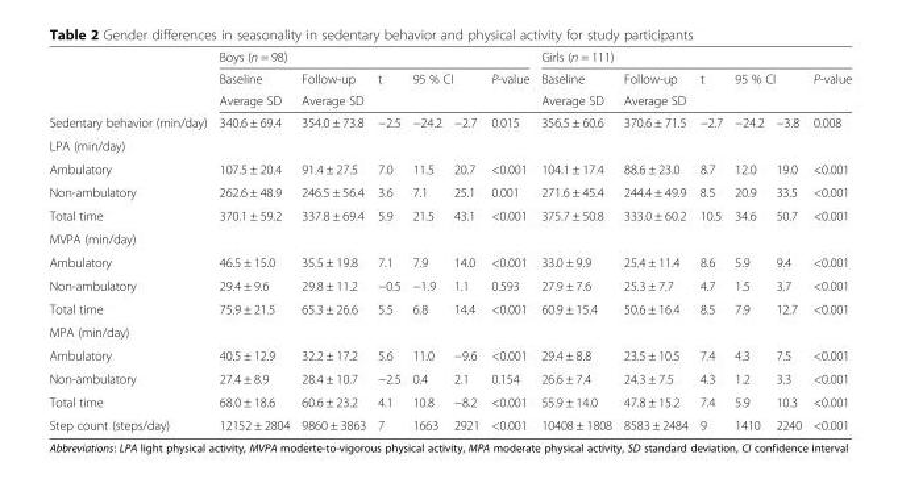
<table><thead><tr><td rowspan="4">Sedentary behavior (min/day)</td><td colspan="6">Boys (n = 98)</td><td colspan="6">Girls (n = 111)</td></tr><tr><td rowspan="3">Baseline Average SD 340.6 ± 69.4</td><td rowspan="3">Follow-up Average SD 354.0 ± 73.8</td><td rowspan="3">t −2.5</td><td rowspan="2" colspan="2">95 % CI</td><td rowspan="3">P-value 0.015</td><td rowspan="3">Baseline Average SD 356.5 ± 60.6</td><td rowspan="3">Follow-up Average SD 370.6 ± 71.5</td><td rowspan="3">t −2.7</td><td rowspan="2" colspan="2">95 % CI</td><td rowspan="3">P-value 0.008</td></tr><tr></tr><tr><td>−24.2</td><td>−2.7</td><td>−24.2</td><td>−3.8</td></tr></thead><tbody><tr><td colspan="13">LPA (min/day)</td></tr><tr><td>Ambulatory</td><td>107.5 ± 20.4</td><td>91.4 ± 27.5</td><td>7.0</td><td>11.5</td><td>20.7</td><td>&lt;0.001</td><td>104.1 ± 17.4</td><td>88.6 ± 23.0</td><td>8.7</td><td>12.0</td><td>19.0</td><td>&lt;0.001</td></tr><tr><td>Non-ambulatory</td><td>262.6 ± 48.9</td><td>246.5 ± 56.4</td><td>3.6</td><td>7.1</td><td>25.1</td><td>0.001</td><td>271.6 ± 45.4</td><td>244.4 ± 49.9</td><td>8.5</td><td>20.9</td><td>33.5</td><td>&lt;0.001</td></tr><tr><td>Total time</td><td>370.1 ± 59.2</td><td>337.8 ± 69.4</td><td>5.9</td><td>21.5</td><td>43.1</td><td>&lt;0.001</td><td>375.7 ± 50.8</td><td>333.0 ± 60.2</td><td>10.5</td><td>34.6</td><td>50.7</td><td>&lt;0.001</td></tr><tr><td colspan="13">MVPA (min/day)</td></tr><tr><td>Ambulatory</td><td>46.5 ± 15.0</td><td>35.5 ± 19.8</td><td>7.1</td><td>7.9</td><td>14.0</td><td>&lt;0.001</td><td>33.0 ± 9.9</td><td>25.4 ± 11.4</td><td>8.6</td><td>5.9</td><td>9.4</td><td>&lt;0.001</td></tr><tr><td>Non-ambulatory</td><td>29.4 ± 9.6</td><td>29.8 ± 11.2</td><td>−0.5</td><td>−1.9</td><td>1.1</td><td>0.593</td><td>27.9 ± 7.6</td><td>25.3 ± 7.7</td><td>4.7</td><td>1.5</td><td>3.7</td><td>&lt;0.001</td></tr><tr><td>Total time</td><td>75.9 ± 21.5</td><td>65.3 ± 26.6</td><td>5.5</td><td>6.8</td><td>14.4</td><td>&lt;0.001</td><td>60.9 ± 15.4</td><td>50.6 ± 16.4</td><td>8.5</td><td>7.9</td><td>12.7</td><td>&lt;0.001</td></tr><tr><td colspan="13">MPA (min/day)</td></tr><tr><td>Ambulatory</td><td>40.5 ± 12.9</td><td>32.2 ± 17.2</td><td>5.6</td><td>11.0</td><td>−9.6</td><td>&lt;0.001</td><td>29.4 ± 8.8</td><td>23.5 ± 10.5</td><td>7.4</td><td>4.3</td><td>7.5</td><td>&lt;0.001</td></tr><tr><td>Non-ambulatory</td><td>27.4 ± 8.9</td><td>28.4 ± 10.7</td><td>−2.5</td><td>0.4</td><td>2.1</td><td>0.154</td><td>26.6 ± 7.4</td><td>24.3 ± 7.5</td><td>4.3</td><td>1.2</td><td>3.3</td><td>&lt;0.001</td></tr><tr><td>Total time</td><td>68.0 ± 18.6</td><td>60.6 ± 23.2</td><td>4.1</td><td>10.8</td><td>−8.2</td><td>&lt;0.001</td><td>55.9 ± 14.0</td><td>47.8 ± 15.2</td><td>7.4</td><td>5.9</td><td>10.3</td><td>&lt;0.001</td></tr><tr><td>Step count (steps/day)</td><td>12152 ± 2804</td><td>9860 ± 3863</td><td>7</td><td>1663</td><td>2921</td><td>&lt;0.001</td><td>10408 ± 1808</td><td>8583 ± 2484</td><td>9</td><td>1410</td><td>2240</td><td>&lt;0.001</td></tr></tbody></table>